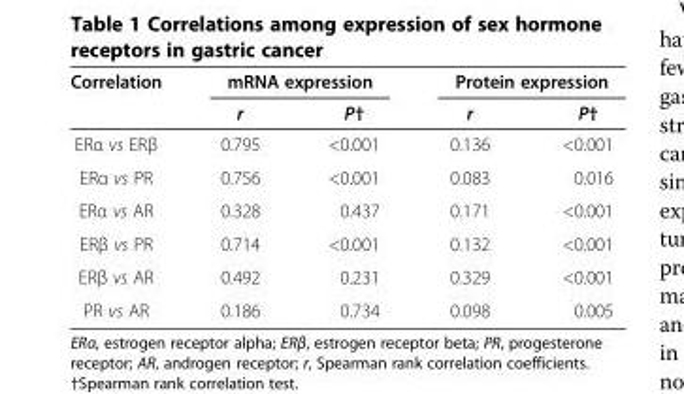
<table><thead><tr><td rowspan="2">Correlation</td><td colspan="2">mRNA expression</td><td colspan="2">Protein expression</td></tr><tr><td>r</td><td>P†</td><td>r</td><td>P†</td></tr></thead><tbody><tr><td>ERα vs ERβ</td><td>0.795</td><td>&lt;0.001</td><td>0.136</td><td>&lt;0.001</td></tr><tr><td>ERα vs PR</td><td>0.756</td><td>&lt;0.001</td><td>0.083</td><td>0.016</td></tr><tr><td>ERα vs AR</td><td>0.328</td><td>0.437</td><td>0.171</td><td>&lt;0.001</td></tr><tr><td>ERβ vs PR</td><td>0.714</td><td>&lt;0.001</td><td>0.132</td><td>&lt;0.001</td></tr><tr><td>ERβ vs AR</td><td>0.492</td><td>0.231</td><td>0.329</td><td>&lt;0.001</td></tr><tr><td>PR vs AR</td><td>0.186</td><td>0.734</td><td>0.098</td><td>0.005</td></tr></tbody></table>